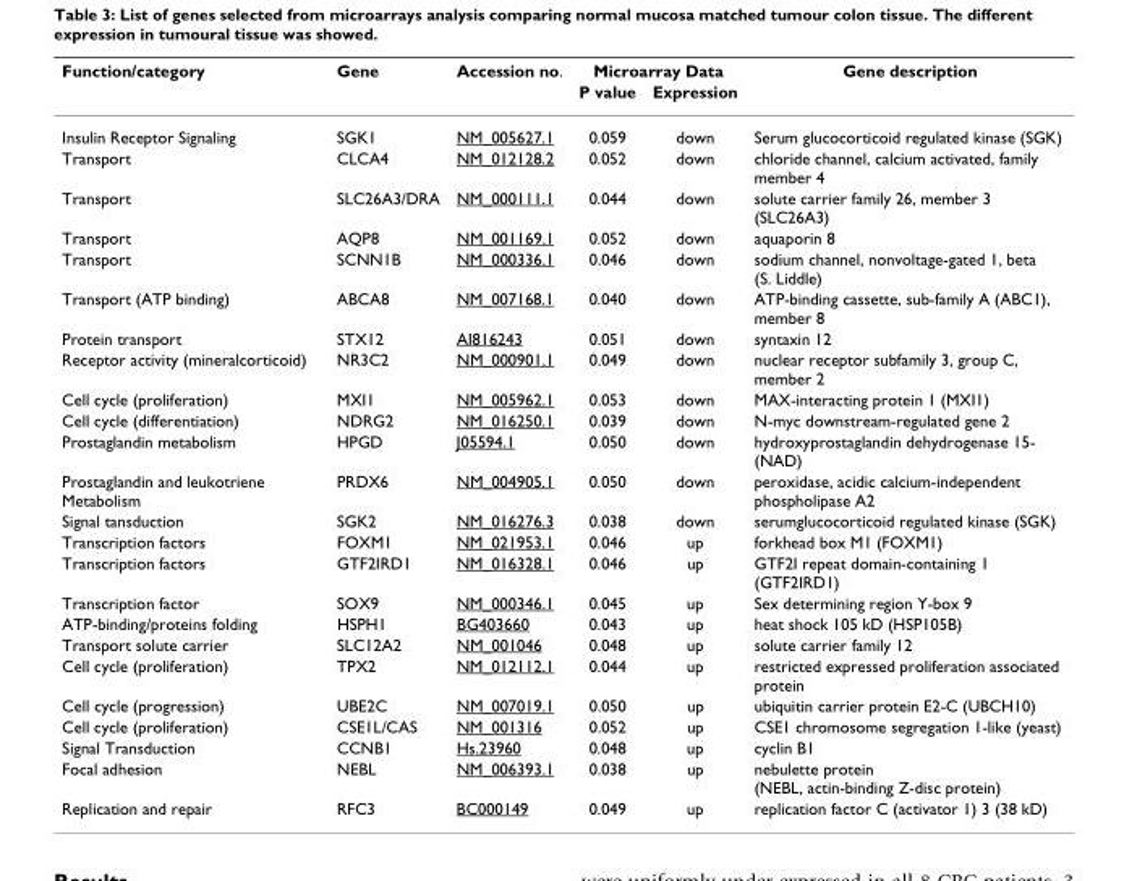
<table><thead><tr><td rowspan="2">Function/category</td><td rowspan="2">Gene</td><td rowspan="2">Accession no.</td><td colspan="2">Microarray Data</td><td rowspan="2">Gene description</td></tr><tr><td>P value</td><td>Expression</td></tr></thead><tbody><tr><td>Insulin Receptor Signaling</td><td>SGK1</td><td>NM_005627.1</td><td>0.059</td><td>down</td><td>Serum glucocorticoid regulated kinase (SGK)</td></tr><tr><td>Transport</td><td>CLCA4</td><td>NM_012128.2</td><td>0.052</td><td>down</td><td>chloride channel, calcium activated, family member 4</td></tr><tr><td>Transport</td><td>SLC26A3/DRA</td><td>NM_000111.1</td><td>0.044</td><td>down</td><td>solute carrier family 26, member 3 (SLC26A3)</td></tr><tr><td>Transport</td><td>AQP8</td><td>NM_001169.1</td><td>0.052</td><td>down</td><td>aquaporin 8</td></tr><tr><td>Transport</td><td>SCNN1B</td><td>NM_000336.1</td><td>0.046</td><td>down</td><td>sodium channel, nonvoltage-gated 1, beta (S. Liddle)</td></tr><tr><td>Transport (ATP binding)</td><td>ABCA8</td><td>NM_007168.1</td><td>0.040</td><td>down</td><td>ATP-binding cassette, sub-family A (ABC1), member 8</td></tr><tr><td>Protein transport</td><td>STX12</td><td>AI816243</td><td>0.051</td><td>down</td><td>syntaxin 12</td></tr><tr><td>Receptor activity (mineralcorticoid)</td><td>NR3C2</td><td>NM_000901.1</td><td>0.049</td><td>down</td><td>nuclear receptor subfamily 3, group C, member 2</td></tr><tr><td>Cell cycle (proliferation)</td><td>MXI1</td><td>NM_005962.1</td><td>0.053</td><td>down</td><td>MAX-interacting protein 1 (MXI1)</td></tr><tr><td>Cell cycle (differentiation)</td><td>NDRG2</td><td>NM_016250.1</td><td>0.039</td><td>down</td><td>N-myc downstream-regulated gene 2</td></tr><tr><td>Prostaglandin metabolism</td><td>HPGD</td><td>J05594.1</td><td>0.050</td><td>down</td><td>hydroxyprostaglandin dehydrogenase 15- (NAD)</td></tr><tr><td>Prostaglandin and leukotriene Metabolism</td><td>PRDX6</td><td>NM_004905.1</td><td>0.050</td><td>down</td><td>peroxidase, acidic calcium-independent phospholipase A2</td></tr><tr><td>Signal tansduction</td><td>SGK2</td><td>NM_016276.3</td><td>0.038</td><td>down</td><td>serumglucocorticoid regulated kinase (SGK)</td></tr><tr><td>Transcription factors</td><td>FOXM1</td><td>NM_021953.1</td><td>0.046</td><td>up</td><td>forkhead box M1 (FOXM1)</td></tr><tr><td>Transcription factors</td><td>GTF2IRD1</td><td>NM_016328.1</td><td>0.046</td><td>up</td><td>GTF2I repeat domain-containing 1 (GTF2IRD1)</td></tr><tr><td>Transcription factor</td><td>SOX9</td><td>NM_000346.1</td><td>0.045</td><td>up</td><td>Sex determining region Y-box 9</td></tr><tr><td>ATP-binding/proteins folding</td><td>HSPH1</td><td>BG403660</td><td>0.043</td><td>up</td><td>heat shock 105 kD (HSP105B)</td></tr><tr><td>Transport solute carrier</td><td>SLC12A2</td><td>NM_001046</td><td>0.048</td><td>up</td><td>solute carrier family 12</td></tr><tr><td>Cell cycle (proliferation)</td><td>TPX2</td><td>NM_012112.1</td><td>0.044</td><td>up</td><td>restricted expressed proliferation associated protein</td></tr><tr><td>Cell cycle (progression)</td><td>UBE2C</td><td>NM_007019.1</td><td>0.050</td><td>up</td><td>ubiquitin carrier protein E2-C (UBCH10)</td></tr><tr><td>Cell cycle (proliferation)</td><td>CSE1L/CAS</td><td>NM_001316</td><td>0.052</td><td>up</td><td>CSE1 chromosome segregation 1-like (yeast)</td></tr><tr><td>Signal Transduction</td><td>CCNB1</td><td>Hs.23960</td><td>0.048</td><td>up</td><td>cyclin B1</td></tr><tr><td>Focal adhesion</td><td>NEBL</td><td>NM_006393.1</td><td>0.038</td><td>up</td><td>nebulette protein (NEBL, actin-binding Z-disc protein)</td></tr><tr><td>Replication and repair</td><td>RFC3</td><td>BC000149</td><td>0.049</td><td>up</td><td>replication factor C (activator 1) 3 (38 kD)</td></tr></tbody></table>